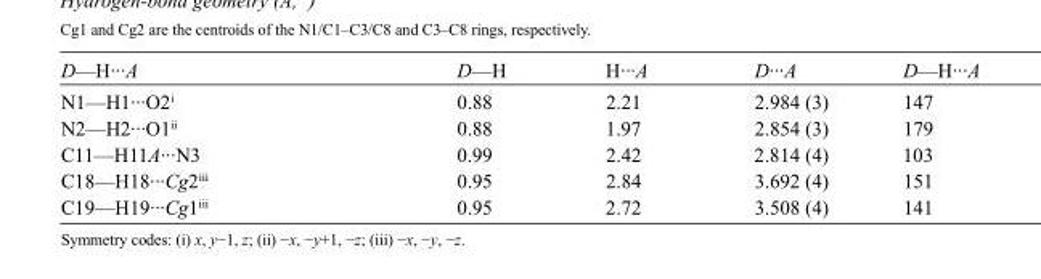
<table><tbody><tr><td>D—H···A</td><td>D—H</td><td>H···A</td><td>D···A</td><td>D—H···A</td></tr><tr><td>N1—H1···O2<sup>i</sup></td><td>0.88</td><td>2.21</td><td>2.984 (3)</td><td>147</td></tr><tr><td>N2—H2···O1<sup>ii</sup></td><td>0.88</td><td>1.97</td><td>2.854 (3)</td><td>179</td></tr><tr><td>C11—H11A···N3</td><td>0.99</td><td>2.42</td><td>2.814 (4)</td><td>103</td></tr><tr><td>C18—H18···Cg2<sup>iii</sup></td><td>0.95</td><td>2.84</td><td>3.692 (4)</td><td>151</td></tr><tr><td>C19—H19···Cg1<sup>iii</sup></td><td>0.95</td><td>2.72</td><td>3.508 (4)</td><td>141</td></tr></tbody></table>